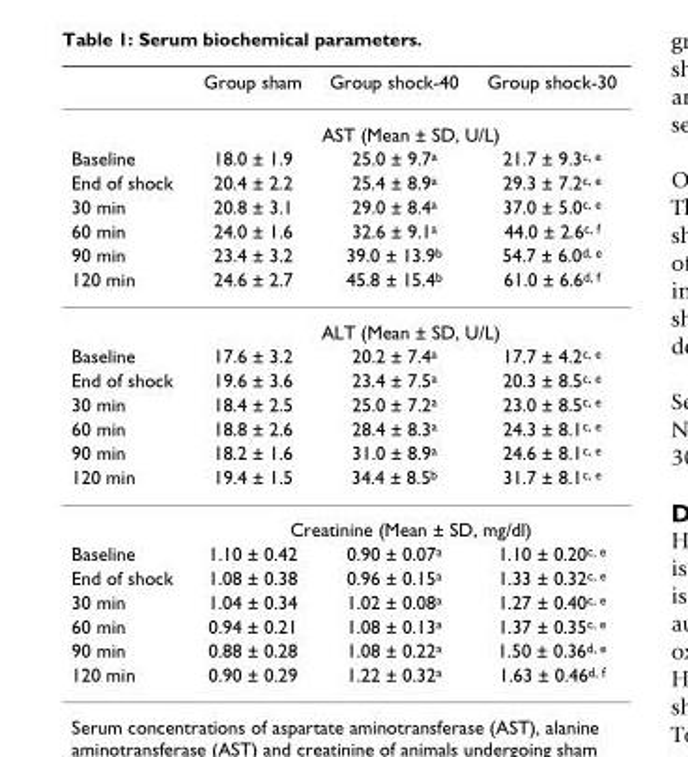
<table><thead><tr><td></td><td>Group sham</td><td>Group shock-40</td><td>Group shock-30</td></tr></thead><tbody><tr><td></td><td colspan="3">AST (Mean ± SD, U/L)</td></tr><tr><td>Baseline</td><td>18.0 ± 1.9</td><td>25.0 ± 9.7<sup>a</sup></td><td>21.7 ± 9.3<sup>c, e</sup></td></tr><tr><td>End of shock</td><td>20.4 ± 2.2</td><td>25.4 ± 8.9<sup>a</sup></td><td>29.3 ± 7.2<sup>c, e</sup></td></tr><tr><td>30 min</td><td>20.8 ± 3.1</td><td>29.0 ± 8.4<sup>a</sup></td><td>37.0 ± 5.0<sup>c, e</sup></td></tr><tr><td>60 min</td><td>24.0 ± 1.6</td><td>32.6 ± 9.1<sup>a</sup></td><td>44.0 ± 2.6<sup>c, f</sup></td></tr><tr><td>90 min</td><td>23.4 ± 3.2</td><td>39.0 ± 13.9<sup>b</sup></td><td>54.7 ± 6.0<sup>d, e</sup></td></tr><tr><td rowspan="2">120 min</td><td>24.6 ± 2.7</td><td>45.8 ± 15.4<sup>b</sup></td><td>61.0 ± 6.6<sup>d, f</sup></td></tr><tr><td colspan="3">ALT (Mean ± SD, U/L)</td></tr><tr><td>Baseline</td><td>17.6 ± 3.2</td><td>20.2 ± 7.4<sup>a</sup></td><td>17.7 ± 4.2<sup>c, e</sup></td></tr><tr><td>End of shock</td><td>19.6 ± 3.6</td><td>23.4 ± 7.5<sup>a</sup></td><td>20.3 ± 8.5<sup>c, e</sup></td></tr><tr><td>30 min</td><td>18.4 ± 2.5</td><td>25.0 ± 7.2<sup>a</sup></td><td>23.0 ± 8.5<sup>c, e</sup></td></tr><tr><td>60 min</td><td>18.8 ± 2.6</td><td>28.4 ± 8.3<sup>a</sup></td><td>24.3 ± 8.1<sup>c, e</sup></td></tr><tr><td>90 min</td><td>18.2 ± 1.6</td><td>31.0 ± 8.9<sup>a</sup></td><td>24.6 ± 8.1<sup>c, e</sup></td></tr><tr><td rowspan="2">120 min</td><td>19.4 ± 1.5</td><td>34.4 ± 8.5<sup>b</sup></td><td>31.7 ± 8.1<sup>c, e</sup></td></tr><tr><td colspan="3">Creatinine (Mean ± SD, mg/dl)</td></tr><tr><td>Baseline</td><td>1.10 ± 0.42</td><td>0.90 ± 0.07<sup>a</sup></td><td>1.10 ± 0.20<sup>c, e</sup></td></tr><tr><td>End of shock</td><td>1.08 ± 0.38</td><td>0.96 ± 0.15<sup>a</sup></td><td>1.33 ± 0.32<sup>c, e</sup></td></tr><tr><td>30 min</td><td>1.04 ± 0.34</td><td>1.02 ± 0.08<sup>a</sup></td><td>1.27 ± 0.40<sup>c, e</sup></td></tr><tr><td>60 min</td><td>0.94 ± 0.21</td><td>1.08 ± 0.13<sup>a</sup></td><td>1.37 ± 0.35<sup>c, e</sup></td></tr><tr><td>90 min</td><td>0.88 ± 0.28</td><td>1.08 ± 0.22<sup>a</sup></td><td>1.50 ± 0.36<sup>d, e</sup></td></tr><tr><td>120 min</td><td>0.90 ± 0.29</td><td>1.22 ± 0.32<sup>a</sup></td><td>1.63 ± 0.46<sup>d, f</sup></td></tr></tbody></table>